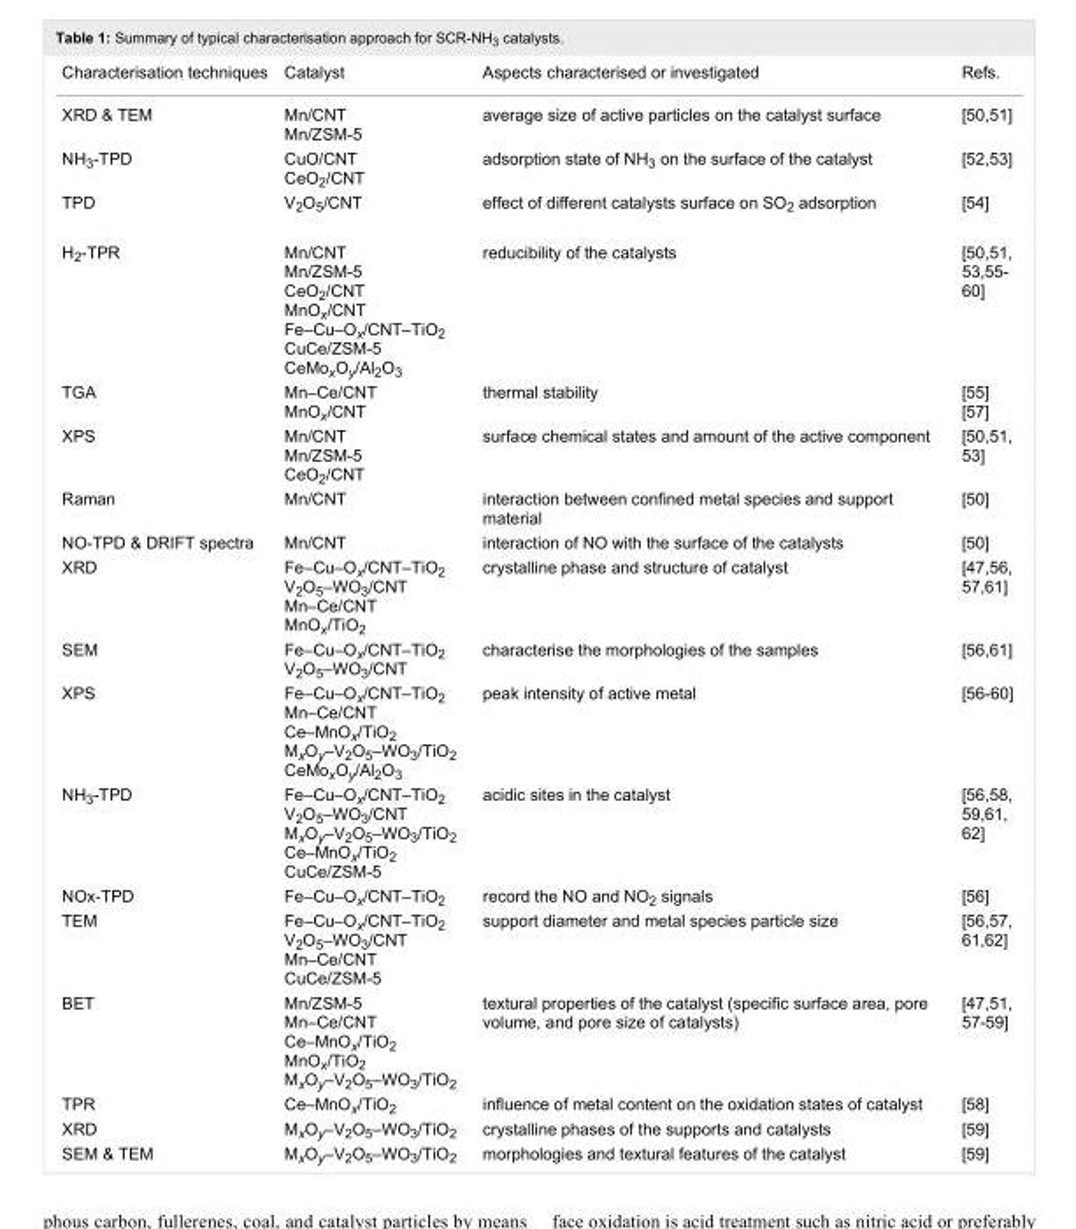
<table><tbody><tr><td>Characterisation techniques</td><td>Catalyst</td><td>Aspects characterised or investigated</td><td>Refs.</td></tr><tr><td>XRD &amp; TEM</td><td>Mn/CNT Mn/ZSM-5</td><td>average size of active particles on the catalyst surface</td><td>[50–51]</td></tr><tr><td>NH<sub>3</sub>-TPD</td><td>CuO/CNT CeO<sub>2</sub>/CNT</td><td>adsorption state of NH<sub>3</sub> on the surface of the catalyst</td><td>[52–53]</td></tr><tr><td>TPD</td><td>V<sub>2</sub>O<sub>5</sub>/CNT</td><td>effect of different catalysts surface on SO<sub>2</sub> adsorption</td><td>[54]</td></tr><tr><td>H<sub>2</sub>-TPR</td><td>Mn/CNT Mn/ZSM-5 CeO<sub>2</sub>/CNT MnO<sub>x</sub>/CNT Fe–Cu–O<sub>x</sub>/CNT–TiO<sub>2</sub> CuCe/ZSM-5 CeMo<sub>x</sub>O<sub>y</sub>/Al<sub>2</sub>O<sub>3</sub></td><td>reducibility of the catalysts</td><td>[50,51, 53,55- 60]</td></tr><tr><td>TGA</td><td>Mn–Ce/CNT MnO<sub>x</sub>/CNT</td><td>thermal stability</td><td>[55] [57]</td></tr><tr><td>XPS</td><td>Mn/CNT Mn/ZSM-5 CeO<sub>2</sub>/CNT</td><td>surface chemical states and amount of the active component</td><td>[50,51, 53]</td></tr><tr><td>Raman</td><td>Mn/CNT</td><td>interaction between confined metal species and support material</td><td>[50]</td></tr><tr><td>NO-TPD &amp; DRIFT spectra</td><td>Mn/CNT</td><td>interaction of NO with the surface of the catalysts</td><td>[50]</td></tr><tr><td>XRD</td><td>Fe–Cu–O<sub>x</sub>/CNT–TiO<sub>2</sub> V<sub>2</sub>O<sub>5</sub>–WO<sub>3</sub>/CNT Mn–Ce/CNT MnO<sub>x</sub>/TiO<sub>2</sub></td><td>crystalline phase and structure of catalyst</td><td>[47,56, 57,61]</td></tr><tr><td>SEM</td><td>Fe–Cu–O<sub>x</sub>/CNT–TiO<sub>2</sub> V<sub>2</sub>O<sub>5</sub>–WO<sub>3</sub>/CNT</td><td>characterise the morphologies of the samples</td><td>[56,61]</td></tr><tr><td>XPS</td><td>Fe–Cu–O<sub>x</sub>/CNT–TiO<sub>2</sub> Mn–Ce/CNT Ce–MnO<sub>x</sub>/TiO<sub>2</sub> M<sub>x</sub>O<sub>y</sub>–V<sub>2</sub>O<sub>5</sub>–WO<sub>3</sub>/TiO<sub>2</sub> CeMo<sub>x</sub>O<sub>y</sub>/Al<sub>2</sub>O<sub>3</sub></td><td>peak intensity of active metal</td><td>[56-60]</td></tr><tr><td>NH<sub>3</sub>-TPD</td><td>Fe–Cu–O<sub>x</sub>/CNT–TiO<sub>2</sub> V<sub>2</sub>O<sub>5</sub>–WO<sub>3</sub>/CNT M<sub>x</sub>O<sub>y</sub>–V<sub>2</sub>O<sub>5</sub>–WO<sub>3</sub>/TiO<sub>2</sub> Ce–MnO<sub>x</sub>/TiO<sub>2</sub> CuCe/ZSM-5</td><td>acidic sites in the catalyst</td><td>[56,58, 59,61, 62]</td></tr><tr><td>NOx-TPD</td><td>Fe–Cu–O<sub>x</sub>/CNT–TiO<sub>2</sub></td><td>record the NO and NO<sub>2</sub> signals</td><td>[56]</td></tr><tr><td>TEM</td><td>Fe–Cu–O<sub>x</sub>/CNT–TiO<sub>2</sub> V<sub>2</sub>O<sub>5</sub>–WO<sub>3</sub>/CNT Mn–Ce/CNT CuCe/ZSM-5</td><td>support diameter and metal species particle size</td><td>[56,57, 61,62]</td></tr><tr><td>BET</td><td>Mn/ZSM-5 Mn–Ce/CNT Ce–MnO<sub>x</sub>/TiO<sub>2</sub> MnO<sub>x</sub>/TiO<sub>2</sub> M<sub>x</sub>O<sub>y</sub>–V<sub>2</sub>O<sub>5</sub>–WO<sub>3</sub>/TiO<sub>2</sub></td><td>textural properties of the catalyst (specific surface area, pore volume, and pore size of catalysts)</td><td>[47,51, 57-59]</td></tr><tr><td>TPR</td><td>Ce–MnO<sub>x</sub>/TiO<sub>2</sub></td><td>influence of metal content on the oxidation states of catalyst</td><td>[58]</td></tr><tr><td>XRD</td><td>M<sub>x</sub>O<sub>y</sub>–V<sub>2</sub>O<sub>5</sub>–WO<sub>3</sub>/TiO<sub>2</sub></td><td>crystalline phases of the supports and catalysts</td><td>[59]</td></tr><tr><td>SEM &amp; TEM</td><td>M<sub>x</sub>O<sub>y</sub>–V<sub>2</sub>O<sub>5</sub>–WO<sub>3</sub>/TiO<sub>2</sub></td><td>morphologies and textural features of the catalyst</td><td>[59]</td></tr></tbody></table>